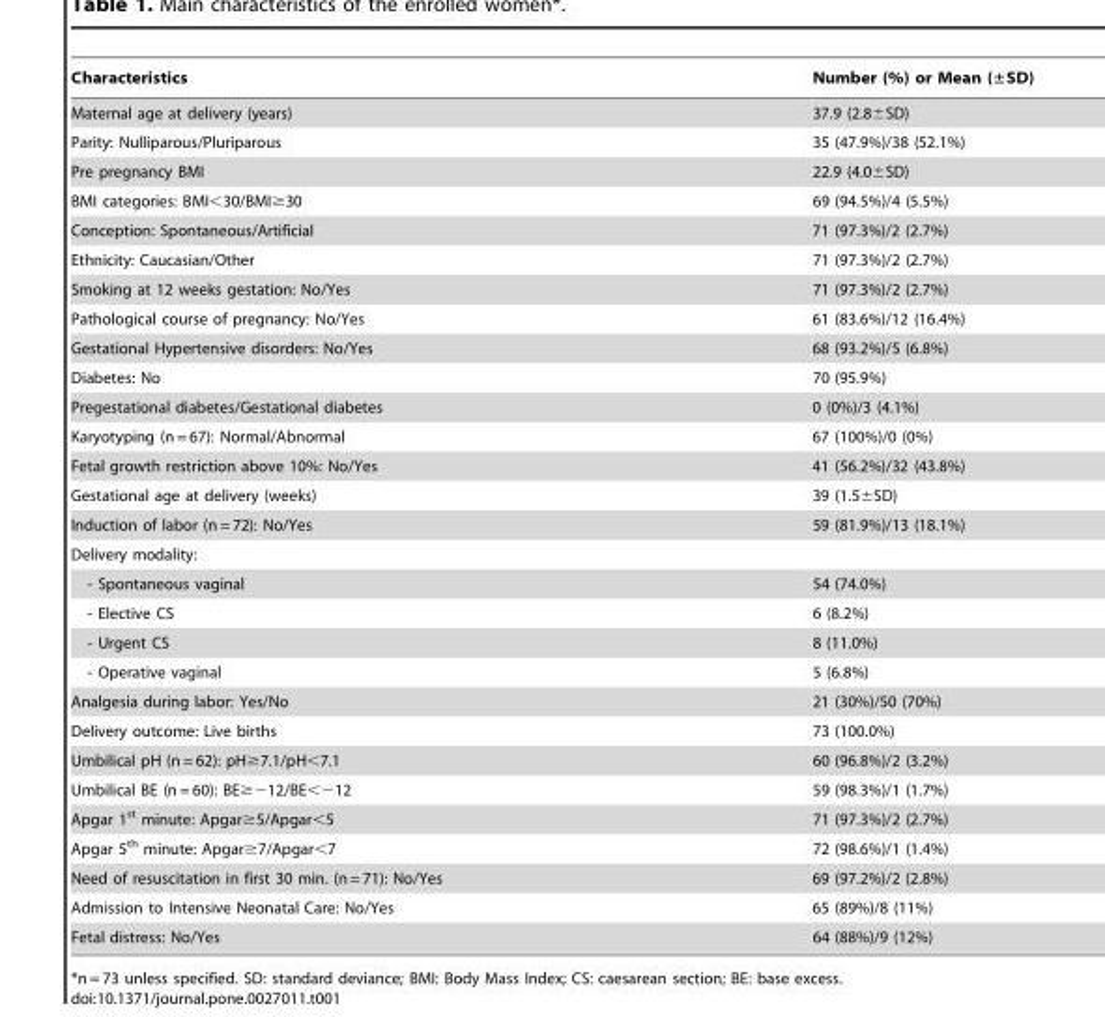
<table><thead><tr><td>Characteristics</td><td>Number (%) or Mean (±SD)</td></tr></thead><tbody><tr><td>Maternal age at delivery (years)</td><td>37.9 (2.8±SD)</td></tr><tr><td>Parity: Nulliparous/Pluriparous</td><td>35 (47.9%)/38 (52.1%)</td></tr><tr><td>Pre pregnancy BMI</td><td>22.9 (4.0±SD)</td></tr><tr><td>BMI categories: BMI&lt;30/BMI≥30</td><td>69 (94.5%)/4 (5.5%)</td></tr><tr><td>Conception: Spontaneous/Artificial</td><td>71 (97.3%)/2 (2.7%)</td></tr><tr><td>Ethnicity: Caucasian/Other</td><td>71 (97.3%)/2 (2.7%)</td></tr><tr><td>Smoking at 12 weeks gestation: No/Yes</td><td>71 (97.3%)/2 (2.7%)</td></tr><tr><td>Pathological course of pregnancy: No/Yes</td><td>61 (83.6%)/12 (16.4%)</td></tr><tr><td>Gestational Hypertensive disorders: No/Yes</td><td>68 (93.2%)/5 (6.8%)</td></tr><tr><td>Diabetes: No</td><td>70 (95.9%)</td></tr><tr><td>Pregestational diabetes/Gestational diabetes</td><td>0 (0%)/3 (4.1%)</td></tr><tr><td>Karyotyping (n = 67): Normal/Abnormal</td><td>67 (100%)/0 (0%)</td></tr><tr><td>Fetal growth restriction above 10%: No/Yes</td><td>41 (56.2%)/32 (43.8%)</td></tr><tr><td>Gestational age at delivery (weeks)</td><td>39 (1.5±SD)</td></tr><tr><td>Induction of labor (n = 72): No/Yes</td><td>59 (81.9%)/13 (18.1%)</td></tr><tr><td colspan="2">Delivery modality:</td></tr><tr><td>- Spontaneous vaginal</td><td>54 (74.0%)</td></tr><tr><td>- Elective CS</td><td>6 (8.2%)</td></tr><tr><td>- Urgent CS</td><td>8 (11.0%)</td></tr><tr><td>- Operative vaginal</td><td>5 (6.8%)</td></tr><tr><td>Analgesia during labor: Yes/No</td><td>21 (30%)/50 (70%)</td></tr><tr><td>Delivery outcome: Live births</td><td>73 (100.0%)</td></tr><tr><td>Umbilical pH (n = 62): pH≥7.1/pH&lt;7.1</td><td>60 (96.8%)/2 (3.2%)</td></tr><tr><td>Umbilical BE (n = 60): BE≥−12/BE&lt;−12</td><td>59 (98.3%)/1 (1.7%)</td></tr><tr><td>Apgar 1<sup>st</sup> minute: Apgar≥5/Apgar&lt;5</td><td>71 (97.3%)/2 (2.7%)</td></tr><tr><td>Apgar 5<sup>th</sup> minute: Apgar≥7/Apgar&lt;7</td><td>72 (98.6%)/1 (1.4%)</td></tr><tr><td>Need of resuscitation in first 30 min. (n = 71): No/Yes</td><td>69 (97.2%)/2 (2.8%)</td></tr><tr><td>Admission to Intensive Neonatal Care: No/Yes</td><td>65 (89%)/8 (11%)</td></tr><tr><td>Fetal distress: No/Yes</td><td>64 (88%)/9 (12%)</td></tr></tbody></table>